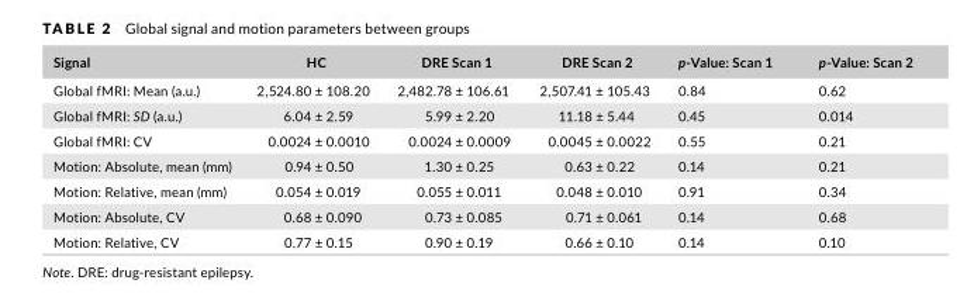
<table><thead><tr><td>Signal</td><td>HC</td><td>DRE Scan 1</td><td>DRE Scan 2</td><td>p- Value: Scan 1</td><td>p- Value: Scan 2</td></tr></thead><tbody><tr><td>Global fMRI: Mean (a.u.)</td><td>2,524.80 ± 108.20</td><td>2,482.78 ± 106.61</td><td>2,507.41 ± 105.43</td><td>0.84</td><td>0.62</td></tr><tr><td>Global fMRI: SD (a.u.)</td><td>6.04 ± 2.59</td><td>5.99 ± 2.20</td><td>11.18 ± 5.44</td><td>0.45</td><td>0.014</td></tr><tr><td>Global fMRI: CV</td><td>0.0024 ± 0.0010</td><td>0.0024 ± 0.0009</td><td>0.0045 ± 0.0022</td><td>0.55</td><td>0.21</td></tr><tr><td>Motion: Absolute, mean (mm)</td><td>0.94 ± 0.50</td><td>1.30 ± 0.25</td><td>0.63 ± 0.22</td><td>0.14</td><td>0.21</td></tr><tr><td>Motion: Relative, mean (mm)</td><td>0.054 ± 0.019</td><td>0.055 ± 0.011</td><td>0.048 ± 0.010</td><td>0.91</td><td>0.34</td></tr><tr><td>Motion: Absolute, CV</td><td>0.68 ± 0.090</td><td>0.73 ± 0.085</td><td>0.71 ± 0.061</td><td>0.14</td><td>0.68</td></tr><tr><td>Motion: Relative, CV</td><td>0.77 ± 0.15</td><td>0.90 ± 0.19</td><td>0.66 ± 0.10</td><td>0.14</td><td>0.10</td></tr></tbody></table>